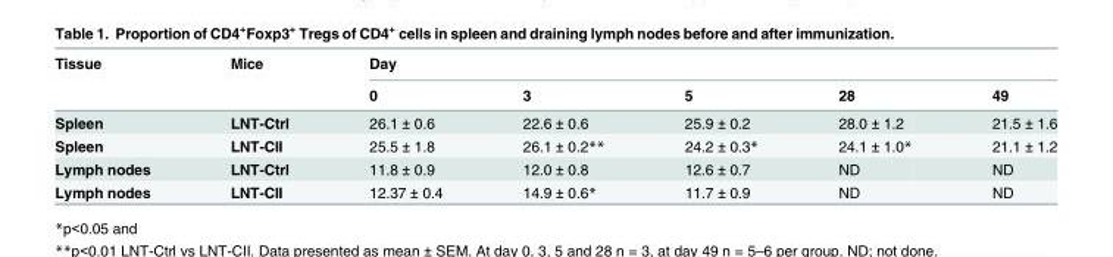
<table><thead><tr><td rowspan="2">Tissue</td><td rowspan="2">Mice</td><td colspan="5">Day</td></tr><tr><td>0</td><td>3</td><td>5</td><td>28</td><td>49</td></tr></thead><tbody><tr><td>Spleen</td><td>LNT-Ctrl</td><td>26.1 ± 0.6</td><td>22.6 ± 0.6</td><td>25.9 ± 0.2</td><td>28.0 ± 1.2</td><td>21.5 ± 1.6</td></tr><tr><td>Spleen</td><td>LNT-CII</td><td>25.5 ± 1.8</td><td>26.1 ± 0.2**</td><td>24.2 ± 0.3*</td><td>24.1 ± 1.0*</td><td>21.1 ± 1.2</td></tr><tr><td>Lymph nodes</td><td>LNT-Ctrl</td><td>11.8 ± 0.9</td><td>12.0 ± 0.8</td><td>12.6 ± 0.7</td><td>ND</td><td>ND</td></tr><tr><td>Lymph nodes</td><td>LNT-CII</td><td>12.37 ± 0.4</td><td>14.9 ± 0.6*</td><td>11.7 ± 0.9</td><td>ND</td><td>ND</td></tr></tbody></table>